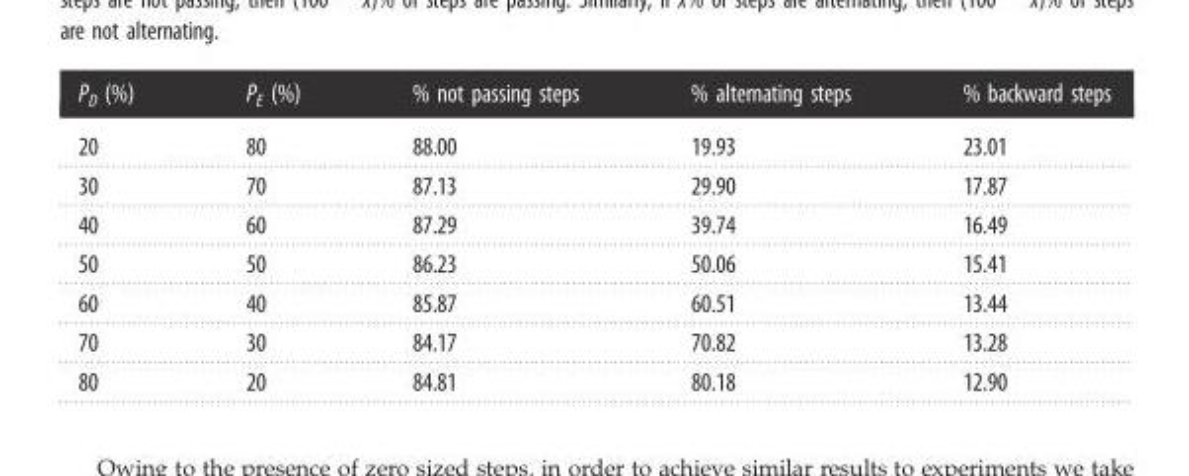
<table><thead><tr><td>P<sub>D</sub> (%)</td><td>P<sub>E</sub> (%)</td><td>% not passing steps</td><td>% alternating steps</td><td>% backward steps</td></tr></thead><tbody><tr><td>20</td><td>80</td><td>88.00</td><td>19.93</td><td>23.01</td></tr><tr><td>30</td><td>70</td><td>87.13</td><td>29.90</td><td>17.87</td></tr><tr><td>40</td><td>60</td><td>87.29</td><td>39.74</td><td>16.49</td></tr><tr><td>50</td><td>50</td><td>86.23</td><td>50.06</td><td>15.41</td></tr><tr><td>60</td><td>40</td><td>85.87</td><td>60.51</td><td>13.44</td></tr><tr><td>70</td><td>30</td><td>84.17</td><td>70.82</td><td>13.28</td></tr><tr><td>80</td><td>20</td><td>84.81</td><td>80.18</td><td>12.90</td></tr></tbody></table>